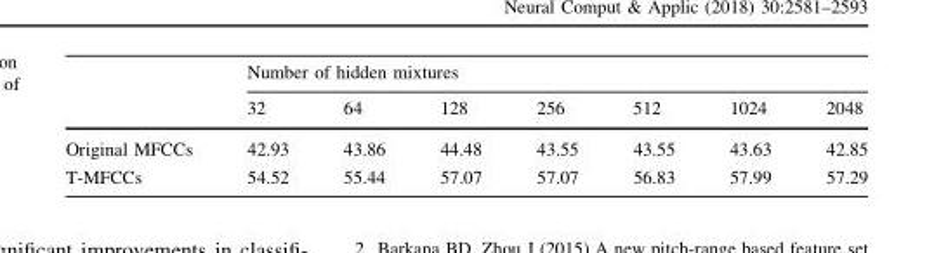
<table><thead><tr><td rowspan="2"></td><td colspan="7">Number of hidden mixtures</td></tr><tr><td>32</td><td>64</td><td>128</td><td>256</td><td>512</td><td>1024</td><td>2048</td></tr></thead><tbody><tr><td>Original MFCCs</td><td>42.93</td><td>43.86</td><td>44.48</td><td>43.55</td><td>43.55</td><td>43.63</td><td>42.85</td></tr><tr><td>T-MFCCs</td><td>54.52</td><td>55.44</td><td>57.07</td><td>57.07</td><td>56.83</td><td>57.99</td><td>57.29</td></tr></tbody></table>